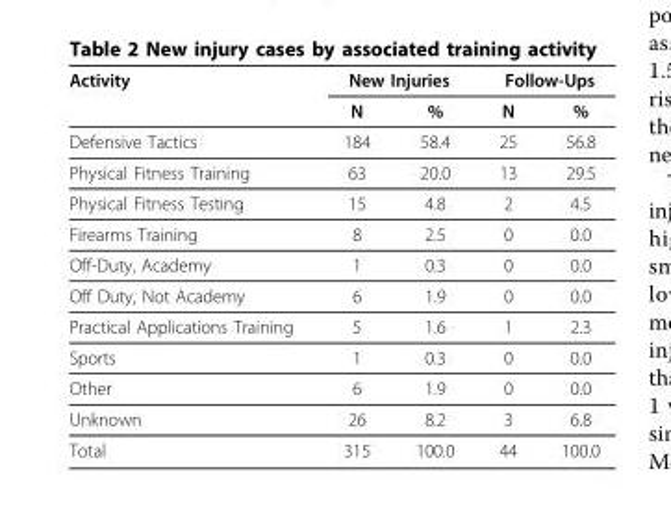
<table><thead><tr><td rowspan="2">Activity</td><td colspan="2">New Injuries</td><td colspan="2">Follow-Ups</td></tr><tr><td>N</td><td>%</td><td>N</td><td>%</td></tr></thead><tbody><tr><td>Defensive Tactics</td><td>184</td><td>58.4</td><td>25</td><td>56.8</td></tr><tr><td>Physical Fitness Training</td><td>63</td><td>20.0</td><td>13</td><td>29.5</td></tr><tr><td>Physical Fitness Testing</td><td>15</td><td>4.8</td><td>2</td><td>4.5</td></tr><tr><td>Firearms Training</td><td>8</td><td>2.5</td><td>0</td><td>0.0</td></tr><tr><td>Off-Duty, Academy</td><td>1</td><td>0.3</td><td>0</td><td>0.0</td></tr><tr><td>Off Duty, Not Academy</td><td>6</td><td>1.9</td><td>0</td><td>0.0</td></tr><tr><td>Practical Applications Training</td><td>5</td><td>1.6</td><td>1</td><td>2.3</td></tr><tr><td>Sports</td><td>1</td><td>0.3</td><td>0</td><td>0.0</td></tr><tr><td>Other</td><td>6</td><td>1.9</td><td>0</td><td>0.0</td></tr><tr><td>Unknown</td><td>26</td><td>8.2</td><td>3</td><td>6.8</td></tr><tr><td>Total</td><td>315</td><td>100.0</td><td>44</td><td>100.0</td></tr></tbody></table>